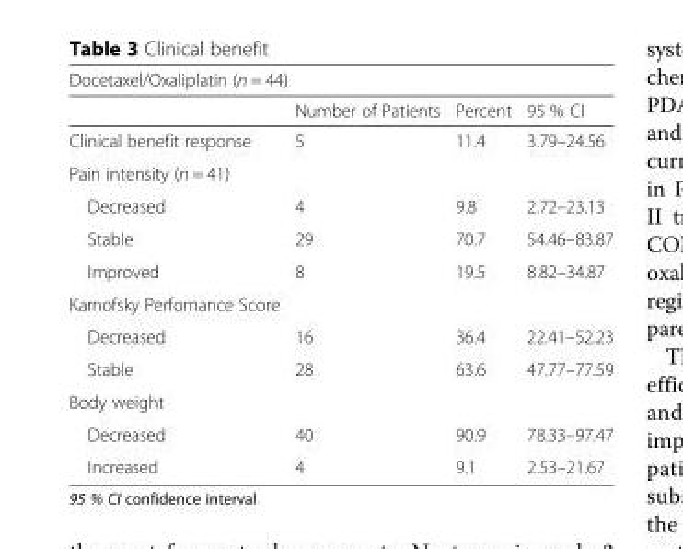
<table><thead><tr><td colspan="4">Docetaxel/Oxaliplatin (n = 44)</td></tr><tr><td></td><td>Number of Patients</td><td>Percent</td><td>95 % CI</td></tr></thead><tbody><tr><td>Clinical benefit response</td><td>5</td><td>11.4</td><td>3.79–24.56</td></tr><tr><td colspan="4">Pain intensity (n = 41)</td></tr><tr><td>Decreased</td><td>4</td><td>9.8</td><td>2.72–23.13</td></tr><tr><td>Stable</td><td>29</td><td>70.7</td><td>54.46–83.87</td></tr><tr><td>Improved</td><td>8</td><td>19.5</td><td>8.82–34.87</td></tr><tr><td colspan="4">Karnofsky Perfomance Score</td></tr><tr><td>Decreased</td><td>16</td><td>36.4</td><td>22.41–52.23</td></tr><tr><td>Stable</td><td>28</td><td>63.6</td><td>47.77–77.59</td></tr><tr><td colspan="4">Body weight</td></tr><tr><td>Decreased</td><td>40</td><td>90.9</td><td>78.33–97.47</td></tr><tr><td>Increased</td><td>4</td><td>9.1</td><td>2.53–21.67</td></tr></tbody></table>